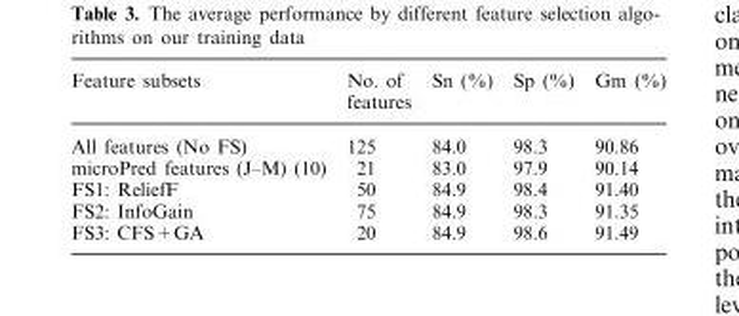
<table><thead><tr><td>Feature subsets</td><td>No. of features</td><td>Sn (%)</td><td>Sp (%)</td><td>Gm (%)</td></tr></thead><tbody><tr><td>All features (No FS)</td><td>125</td><td>84.0</td><td>98.3</td><td>90.86</td></tr><tr><td>microPred features (J–M) (10)</td><td>21</td><td>83.0</td><td>97.9</td><td>90.14</td></tr><tr><td>FS1: ReliefF</td><td>50</td><td>84.9</td><td>98.4</td><td>91.40</td></tr><tr><td>FS2: InfoGain</td><td>75</td><td>84.9</td><td>98.3</td><td>91.35</td></tr><tr><td>FS3: CFS+GA</td><td>20</td><td>84.9</td><td>98.6</td><td>91.49</td></tr></tbody></table>